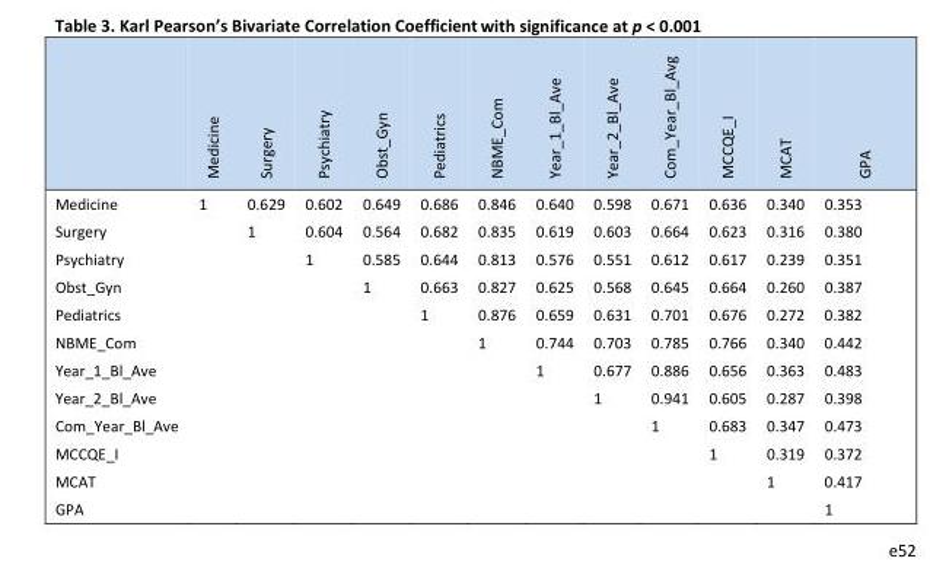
<table><thead><tr><td></td><td>Medicine</td><td>Surgery</td><td>Psychiatry</td><td>Obst_Gyn</td><td>Pediatrics</td><td>NBME_Com</td><td>Year_1_Bl_Ave</td><td>Year_2_Bl_Ave</td><td>Com_Year_Bl_Avg</td><td>MCCQE_I</td><td>MCAT</td><td>GPA</td></tr></thead><tbody><tr><td>Medicine</td><td>1</td><td>0.629</td><td>0.602</td><td>0.649</td><td>0.686</td><td>0.846</td><td>0.640</td><td>0.598</td><td>0.671</td><td>0.636</td><td>0.340</td><td>0.353</td></tr><tr><td>Surgery</td><td></td><td>1</td><td>0.604</td><td>0.564</td><td>0.682</td><td>0.835</td><td>0.619</td><td>0.603</td><td>0.664</td><td>0.623</td><td>0.316</td><td>0.380</td></tr><tr><td>Psychiatry</td><td></td><td></td><td>1</td><td>0.585</td><td>0.644</td><td>0.813</td><td>0.576</td><td>0.551</td><td>0.612</td><td>0.617</td><td>0.239</td><td>0.351</td></tr><tr><td>Obst_Gyn</td><td></td><td></td><td></td><td>1</td><td>0.663</td><td>0.827</td><td>0.625</td><td>0.568</td><td>0.645</td><td>0.664</td><td>0.260</td><td>0.387</td></tr><tr><td>Pediatrics</td><td></td><td></td><td></td><td></td><td>1</td><td>0.876</td><td>0.659</td><td>0.631</td><td>0.701</td><td>0.676</td><td>0.272</td><td>0.382</td></tr><tr><td>NBME_Com</td><td></td><td></td><td></td><td></td><td></td><td>1</td><td>0.744</td><td>0.703</td><td>0.785</td><td>0.766</td><td>0.340</td><td>0.442</td></tr><tr><td>Year_1_Bl_Ave</td><td></td><td></td><td></td><td></td><td></td><td></td><td>1</td><td>0.677</td><td>0.886</td><td>0.656</td><td>0.363</td><td>0.483</td></tr><tr><td>Year_2_Bl_Ave</td><td></td><td></td><td></td><td></td><td></td><td></td><td></td><td>1</td><td>0.941</td><td>0.605</td><td>0.287</td><td>0.398</td></tr><tr><td>Com_Year_Bl_Ave</td><td></td><td></td><td></td><td></td><td></td><td></td><td></td><td></td><td>1</td><td>0.683</td><td>0.347</td><td>0.473</td></tr><tr><td>MCCQE_I</td><td></td><td></td><td></td><td></td><td></td><td></td><td></td><td></td><td></td><td>1</td><td>0.319</td><td>0.372</td></tr><tr><td>MCAT</td><td></td><td></td><td></td><td></td><td></td><td></td><td></td><td></td><td></td><td></td><td>1</td><td>0.417</td></tr><tr><td>GPA</td><td></td><td></td><td></td><td></td><td></td><td></td><td></td><td></td><td></td><td></td><td></td><td>1</td></tr></tbody></table>